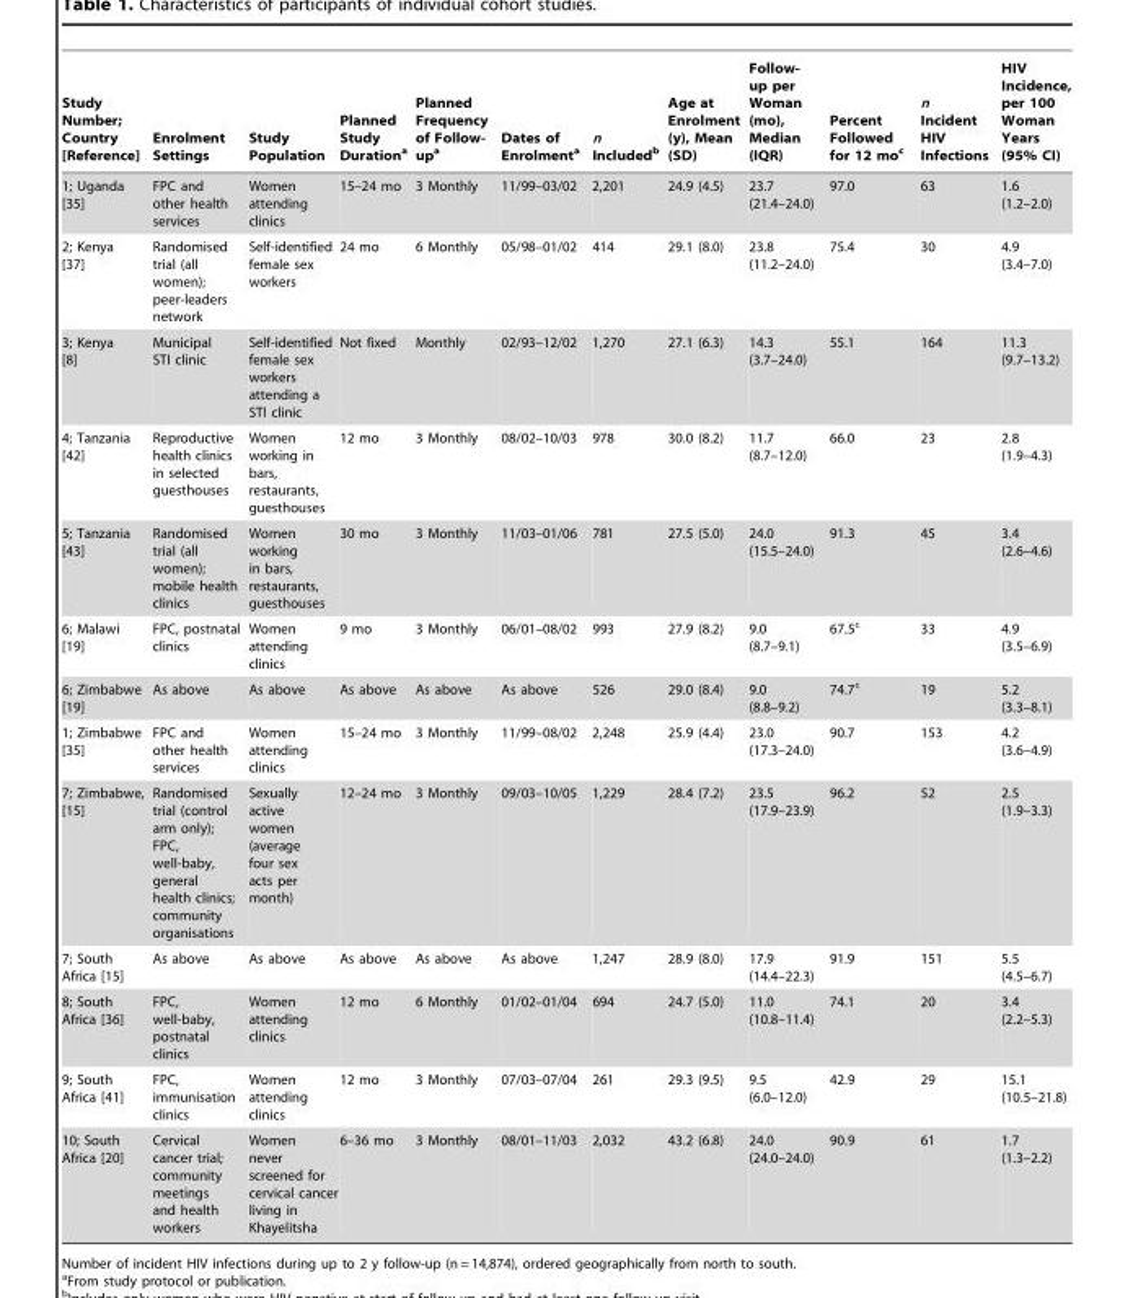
<table><thead><tr><td>Study Number; Country [Reference]</td><td>Enrolment Settings</td><td>Study Population</td><td>Planned Study Duration<sup>a</sup></td><td>Planned Frequency of Follow- up<sup>a</sup></td><td>Dates of Enrolment<sup>a</sup></td><td>n Included<sup>b</sup></td><td>Age at Enrolment (y), Mean (SD)</td><td>Follow- up per Woman (mo), Median (IQR)</td><td>Percent Followed for 12 mo<sup>c</sup></td><td>n Incident HIV Infections</td><td>HIV Incidence, per 100 Woman Years (95% CI)</td></tr></thead><tbody><tr><td>1; Uganda [35]</td><td>FPC and other health services</td><td>Women attending clinics</td><td>15–24 mo</td><td>3 Monthly</td><td>11/99–03/02</td><td>2,201</td><td>24.9 (4.5)</td><td>23.7 (21.4–24.0)</td><td>97.0</td><td>63</td><td>1.6 (1.2–2.0)</td></tr><tr><td>2; Kenya [37]</td><td>Randomised trial (all women); peer-leaders network</td><td>Self-identified female sex workers</td><td>24 mo</td><td>6 Monthly</td><td>05/98–01/02</td><td>414</td><td>29.1 (8.0)</td><td>23.8 (11.2–24.0)</td><td>75.4</td><td>30</td><td>4.9 (3.4–7.0)</td></tr><tr><td>3; Kenya [8]</td><td>Municipal STI clinic</td><td>Self-identified female sex workers attending a STI clinic</td><td>Not fixed</td><td>Monthly</td><td>02/93–12/02</td><td>1,270</td><td>27.1 (6.3)</td><td>14.3 (3.7–24.0)</td><td>55.1</td><td>164</td><td>11.3 (9.7–13.2)</td></tr><tr><td>4; Tanzania [42]</td><td>Reproductive health clinics in selected guesthouses</td><td>Women working in bars, restaurants, guesthouses</td><td>12 mo</td><td>3 Monthly</td><td>08/02–10/03</td><td>978</td><td>30.0 (8.2)</td><td>11.7 (8.7–12.0)</td><td>66.0</td><td>23</td><td>2.8 (1.9–4.3)</td></tr><tr><td>5; Tanzania [43]</td><td>Randomised trial (all women); mobile health clinics</td><td>Women working in bars, restaurants, guesthouses</td><td>30 mo</td><td>3 Monthly</td><td>11/03–01/06</td><td>781</td><td>27.5 (5.0)</td><td>24.0 (15.5–24.0)</td><td>91.3</td><td>45</td><td>3.4 (2.6–4.6)</td></tr><tr><td>6; Malawi [19]</td><td>FPC, postnatal clinics</td><td>Women attending clinics</td><td>9 mo</td><td>3 Monthly</td><td>06/01–08/02</td><td>993</td><td>27.9 (8.2)</td><td>9.0 (8.7–9.1)</td><td>67.5<sup>c</sup></td><td>33</td><td>4.9 (3.5–6.9)</td></tr><tr><td>6; Zimbabwe [19]</td><td>As above</td><td>As above</td><td>As above</td><td>As above</td><td>As above</td><td>526</td><td>29.0 (8.4)</td><td>9.0 (8.8–9.2)</td><td>74.7<sup>c</sup></td><td>19</td><td>5.2 (3.3–8.1)</td></tr><tr><td>1; Zimbabwe [35]</td><td>FPC and other health services</td><td>Women attending clinics</td><td>15–24 mo</td><td>3 Monthly</td><td>11/99–08/02</td><td>2,248</td><td>25.9 (4.4)</td><td>23.0 (17.3–24.0)</td><td>90.7</td><td>153</td><td>4.2 (3.6–4.9)</td></tr><tr><td>7; Zimbabwe, [15]</td><td>Randomised trial (control arm only); FPC, well-baby, general health clinics; community organisations</td><td>Sexually active women (average four sex acts per month)</td><td>12–24 mo</td><td>3 Monthly</td><td>09/03–10/05</td><td>1,229</td><td>28.4 (7.2)</td><td>23.5 (17.9–23.9)</td><td>96.2</td><td>52</td><td>2.5 (1.9–3.3)</td></tr><tr><td>7; South Africa [15]</td><td>As above</td><td>As above</td><td>As above</td><td>As above</td><td>As above</td><td>1,247</td><td>28.9 (8.0)</td><td>17.9 (14.4–22.3)</td><td>91.9</td><td>151</td><td>5.5 (4.5–6.7)</td></tr><tr><td>8; South Africa [36]</td><td>FPC, well-baby, postnatal clinics</td><td>Women attending clinics</td><td>12 mo</td><td>6 Monthly</td><td>01/02–01/04</td><td>694</td><td>24.7 (5.0)</td><td>11.0 (10.8–11.4)</td><td>74.1</td><td>20</td><td>3.4 (2.2–5.3)</td></tr><tr><td>9; South Africa [41]</td><td>FPC, immunisation clinics</td><td>Women attending clinics</td><td>12 mo</td><td>3 Monthly</td><td>07/03–07/04</td><td>261</td><td>29.3 (9.5)</td><td>9.5 (6.0–12.0)</td><td>42.9</td><td>29</td><td>15.1 (10.5–21.8)</td></tr><tr><td>10; South Africa [20]</td><td>Cervical cancer trial; community meetings and health workers</td><td>Women never screened for cervical cancer living in Khayelitsha</td><td>6–36 mo</td><td>3 Monthly</td><td>08/01–11/03</td><td>2,032</td><td>43.2 (6.8)</td><td>24.0 (24.0–24.0)</td><td>90.9</td><td>61</td><td>1.7 (1.3–2.2)</td></tr></tbody></table>